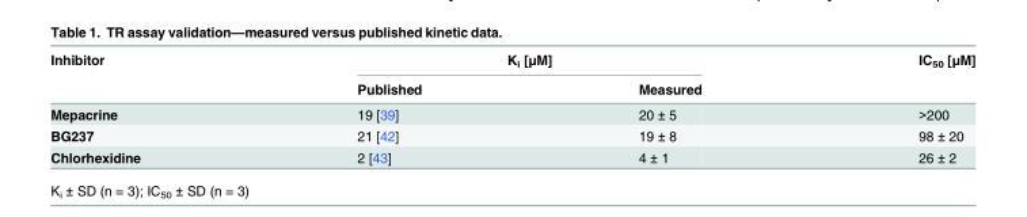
<table><thead><tr><td rowspan="2">Inhibitor</td><td colspan="2">K<sub>i</sub> [μM]</td><td rowspan="2">IC<sub>50</sub> [μM]</td></tr><tr><td>Published</td><td>Measured</td></tr></thead><tbody><tr><td>Mepacrine</td><td>19 [39]</td><td>20 ± 5</td><td>&gt;200</td></tr><tr><td>BG237</td><td>21 [42]</td><td>19 ± 8</td><td>98 ± 20</td></tr><tr><td>Chlorhexidine</td><td>2 [43]</td><td>4 ± 1</td><td>26 ± 2</td></tr></tbody></table>